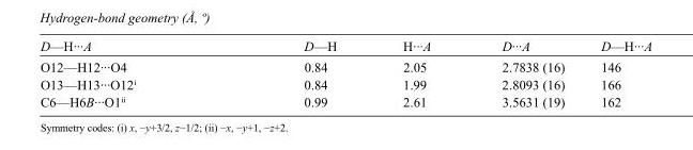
<table><tbody><tr><td>D—H···A</td><td>D—H</td><td>H···A</td><td>D···A</td><td>D—H···A</td></tr><tr><td>O12—H12···O4</td><td>0.84</td><td>2.05</td><td>2.7838 (16)</td><td>146</td></tr><tr><td>O13—H13···O12<sup>i</sup></td><td>0.84</td><td>1.99</td><td>2.8093 (16)</td><td>166</td></tr><tr><td>C6—H6B···O1<sup>ii</sup></td><td>0.99</td><td>2.61</td><td>3.5631 (19)</td><td>162</td></tr></tbody></table>